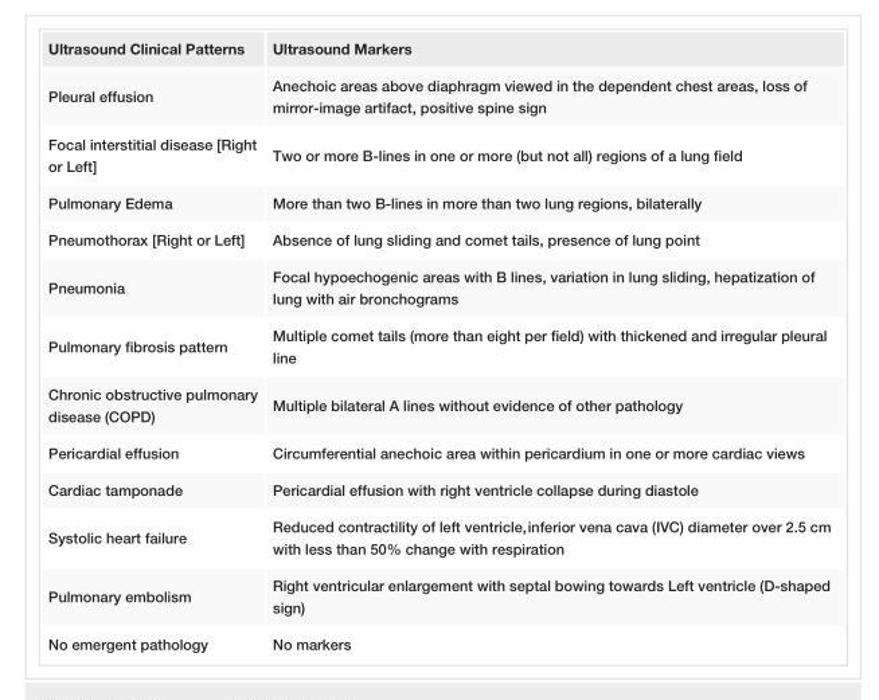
<table><tbody><tr><td>Ultrasound Clinical Patterns</td><td>Ultrasound Markers</td></tr><tr><td>Pleural effusion</td><td>Anechoic areas above diaphragm viewed in the dependent chest areas, loss of mirror-image artifact, positive spine sign</td></tr><tr><td>Focal interstitial disease [Right or Left]</td><td>Two or more B-lines in one or more (but not all) regions of a lung field</td></tr><tr><td>Pulmonary Edema</td><td>More than two B-lines in more than two lung regions, bilaterally</td></tr><tr><td>Pneumothorax [Right or Left]</td><td>Absence of lung sliding and comet tails, presence of lung point</td></tr><tr><td>Pneumonia</td><td>Focal hypoechogenic areas with B lines, variation in lung sliding, hepatization of lung with air bronchograms</td></tr><tr><td>Pulmonary fibrosis pattern</td><td>Multiple comet tails (more than eight per field) with thickened and irregular pleural line</td></tr><tr><td>Chronic obstructive pulmonary disease (COPD)</td><td>Multiple bilateral A lines without evidence of other pathology</td></tr><tr><td>Pericardial effusion</td><td>Circumferential anechoic area within pericardium in one or more cardiac views</td></tr><tr><td>Cardiac tamponade</td><td>Pericardial effusion with right ventricle collapse during diastole</td></tr><tr><td>Systolic heart failure</td><td>Reduced contractility of left ventricle, inferior vena cava (IVC) diameter over 2.5 cm with less than 50% change with respiration</td></tr><tr><td>Pulmonary embolism</td><td>Right ventricular enlargement with septal bowing towards Left ventricle (D-shaped sign)</td></tr><tr><td>No emergent pathology</td><td>No markers</td></tr></tbody></table>